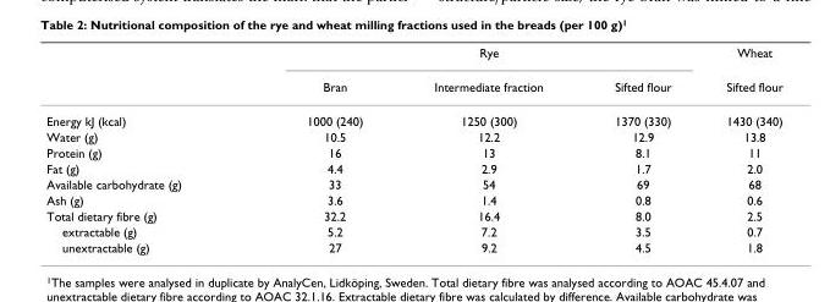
<table><thead><tr><td rowspan="2"></td><td colspan="3">Rye</td><td rowspan="2">Wheat Sifted flour</td></tr><tr><td>Bran</td><td>Intermediate fraction</td><td>Sifted flour</td></tr></thead><tbody><tr><td>Energy kJ (kcal)</td><td>1000 (240)</td><td>1250 (300)</td><td>1370 (330)</td><td>1430 (340)</td></tr><tr><td>Water (g)</td><td>10.5</td><td>12.2</td><td>12.9</td><td>13.8</td></tr><tr><td>Protein (g)</td><td>16</td><td>13</td><td>8.1</td><td>11</td></tr><tr><td>Fat (g)</td><td>4.4</td><td>2.9</td><td>1.7</td><td>2.0</td></tr><tr><td>Available carbohydrate (g)</td><td>33</td><td>54</td><td>69</td><td>68</td></tr><tr><td>Ash (g)</td><td>3.6</td><td>1.4</td><td>0.8</td><td>0.6</td></tr><tr><td>Total dietary fibre (g)</td><td>32.2</td><td>16.4</td><td>8.0</td><td>2.5</td></tr><tr><td>extractable (g)</td><td>5.2</td><td>7.2</td><td>3.5</td><td>0.7</td></tr><tr><td>unextractable (g)</td><td>27</td><td>9.2</td><td>4.5</td><td>1.8</td></tr></tbody></table>